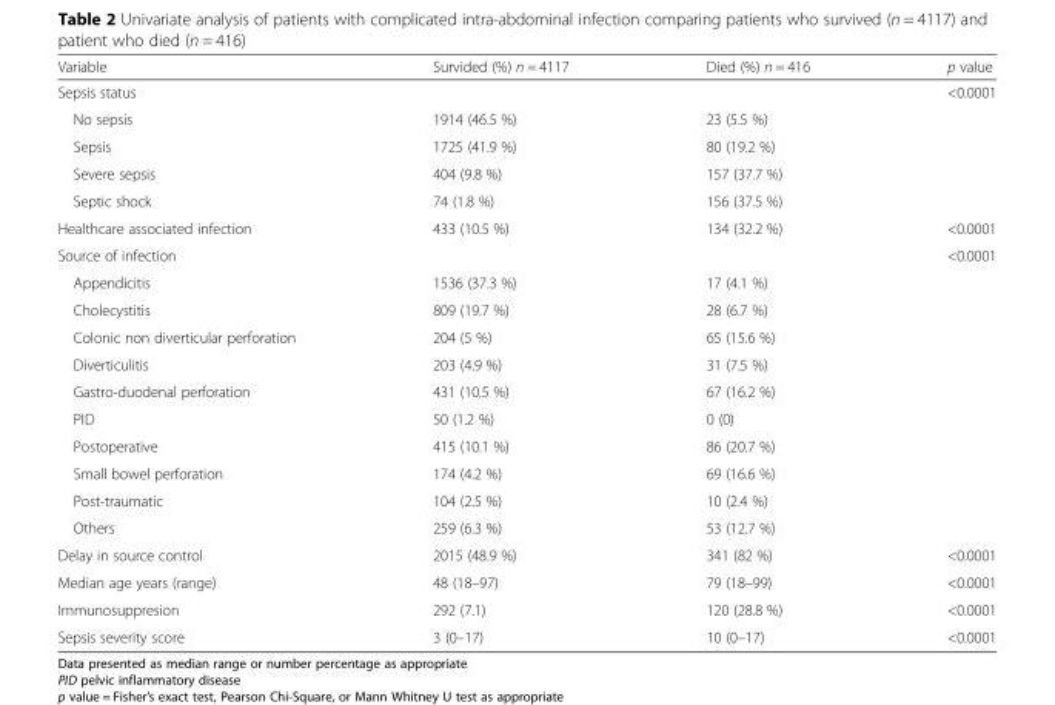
<table><thead><tr><td>Variable</td><td>Survided (%) n = 4117</td><td>Died (%) n = 416</td><td>p value</td></tr></thead><tbody><tr><td colspan="3">Sepsis status</td><td rowspan="5">&lt;0.0001</td></tr><tr><td>No sepsis</td><td>1914 (46.5 %)</td><td>23 (5.5 %)</td></tr><tr><td>Sepsis</td><td>1725 (41.9 %)</td><td>80 (19.2 %)</td></tr><tr><td>Severe sepsis</td><td>404 (9.8 %)</td><td>157 (37.7 %)</td></tr><tr><td>Septic shock</td><td>74 (1.8 %)</td><td>156 (37.5 %)</td></tr><tr><td>Healthcare associated infection</td><td>433 (10.5 %)</td><td>134 (32.2 %)</td><td>&lt;0.0001</td></tr><tr><td colspan="3">Source of infection</td><td rowspan="11">&lt;0.0001</td></tr><tr><td>Appendicitis</td><td>1536 (37.3 %)</td><td>17 (4.1 %)</td></tr><tr><td>Cholecystitis</td><td>809 (19.7 %)</td><td>28 (6.7 %)</td></tr><tr><td>Colonic non diverticular perforation</td><td>204 (5 %)</td><td>65 (15.6 %)</td></tr><tr><td>Diverticulitis</td><td>203 (4.9 %)</td><td>31 (7.5 %)</td></tr><tr><td>Gastro-duodenal perforation</td><td>431 (10.5 %)</td><td>67 (16.2 %)</td></tr><tr><td>PID</td><td>50 (1.2 %)</td><td>0 (0)</td></tr><tr><td>Postoperative</td><td>415 (10.1 %)</td><td>86 (20.7 %)</td></tr><tr><td>Small bowel perforation</td><td>174 (4.2 %)</td><td>69 (16.6 %)</td></tr><tr><td>Post-traumatic</td><td>104 (2.5 %)</td><td>10 (2.4 %)</td></tr><tr><td>Others</td><td>259 (6.3 %)</td><td>53 (12.7 %)</td></tr><tr><td>Delay in source control</td><td>2015 (48.9 %)</td><td>341 (82 %)</td><td>&lt;0.0001</td></tr><tr><td>Median age years (range)</td><td>48 (18–97)</td><td>79 (18–99)</td><td>&lt;0.0001</td></tr><tr><td>Immunosuppresion</td><td>292 (7.1)</td><td>120 (28.8 %)</td><td>&lt;0.0001</td></tr><tr><td>Sepsis severity score</td><td>3 (0–17)</td><td>10 (0–17)</td><td>&lt;0.0001</td></tr></tbody></table>